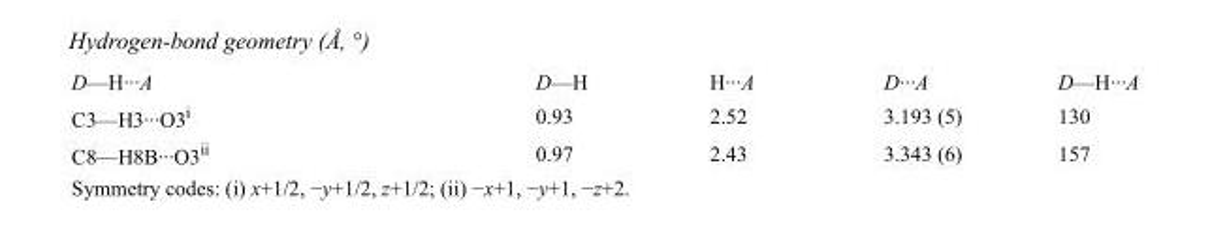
<table><tbody><tr><td>D—H···A</td><td>D—H</td><td>H···A</td><td>D···A</td><td>D—H···A</td></tr><tr><td>C3—H3···O3<sup>i</sup></td><td>0.93</td><td>2.52</td><td>3.193 (5)</td><td>130</td></tr><tr><td>C8—H8B···O3<sup>ii</sup></td><td>0.97</td><td>2.43</td><td>3.343 (6)</td><td>157</td></tr></tbody></table>